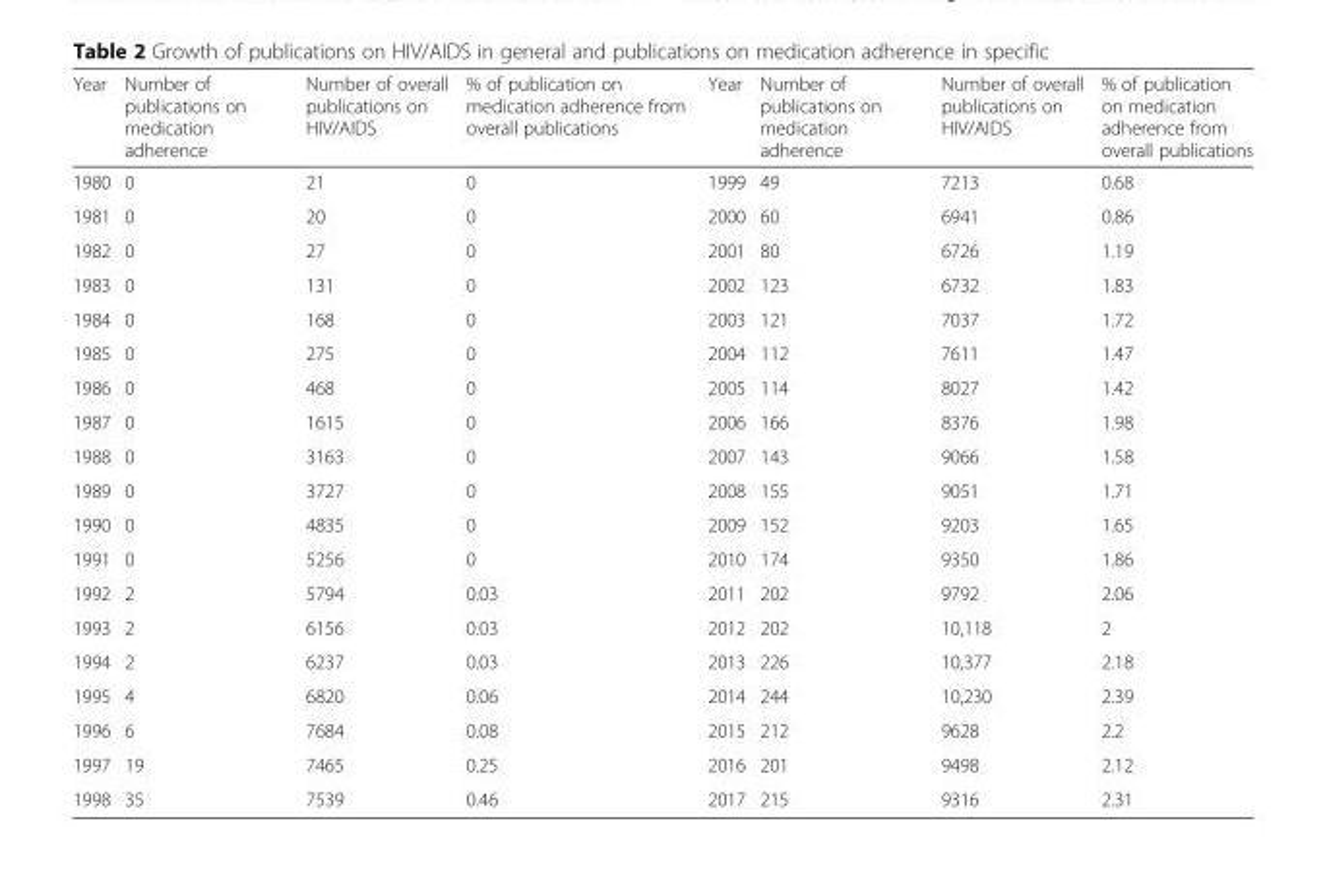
<table><thead><tr><td>Year</td><td>Number of publications on medication adherence</td><td>Number of overall publications on HIV/AIDS</td><td>% of publication on medication adherence from overall publications</td><td>Year</td><td>Number of publications on medication adherence</td><td>Number of overall publications on HIV/AIDS</td><td>% of publication on medication adherence from overall publications</td></tr></thead><tbody><tr><td>1980</td><td>0</td><td>21</td><td>0</td><td>1999</td><td>49</td><td>7213</td><td>0.68</td></tr><tr><td>1981</td><td>0</td><td>20</td><td>0</td><td>2000</td><td>60</td><td>6941</td><td>0.86</td></tr><tr><td>1982</td><td>0</td><td>27</td><td>0</td><td>2001</td><td>80</td><td>6726</td><td>1.19</td></tr><tr><td>1983</td><td>0</td><td>131</td><td>0</td><td>2002</td><td>123</td><td>6732</td><td>1.83</td></tr><tr><td>1984</td><td>0</td><td>168</td><td>0</td><td>2003</td><td>121</td><td>7037</td><td>1.72</td></tr><tr><td>1985</td><td>0</td><td>275</td><td>0</td><td>2004</td><td>112</td><td>7611</td><td>1.47</td></tr><tr><td>1986</td><td>0</td><td>468</td><td>0</td><td>2005</td><td>114</td><td>8027</td><td>1.42</td></tr><tr><td>1987</td><td>0</td><td>1615</td><td>0</td><td>2006</td><td>166</td><td>8376</td><td>1.98</td></tr><tr><td>1988</td><td>0</td><td>3163</td><td>0</td><td>2007</td><td>143</td><td>9066</td><td>1.58</td></tr><tr><td>1989</td><td>0</td><td>3727</td><td>0</td><td>2008</td><td>155</td><td>9051</td><td>1.71</td></tr><tr><td>1990</td><td>0</td><td>4835</td><td>0</td><td>2009</td><td>152</td><td>9203</td><td>1.65</td></tr><tr><td>1991</td><td>0</td><td>5256</td><td>0</td><td>2010</td><td>174</td><td>9350</td><td>1.86</td></tr><tr><td>1992</td><td>2</td><td>5794</td><td>0.03</td><td>2011</td><td>202</td><td>9792</td><td>2.06</td></tr><tr><td>1993</td><td>2</td><td>6156</td><td>0.03</td><td>2012</td><td>202</td><td>10,118</td><td>2</td></tr><tr><td>1994</td><td>2</td><td>6237</td><td>0.03</td><td>2013</td><td>226</td><td>10,377</td><td>2.18</td></tr><tr><td>1995</td><td>4</td><td>6820</td><td>0.06</td><td>2014</td><td>244</td><td>10,230</td><td>2.39</td></tr><tr><td>1996</td><td>6</td><td>7684</td><td>0.08</td><td>2015</td><td>212</td><td>9628</td><td>2.2</td></tr><tr><td>1997</td><td>19</td><td>7465</td><td>0.25</td><td>2016</td><td>201</td><td>9498</td><td>2.12</td></tr><tr><td>1998</td><td>35</td><td>7539</td><td>0.46</td><td>2017</td><td>215</td><td>9316</td><td>2.31</td></tr></tbody></table>